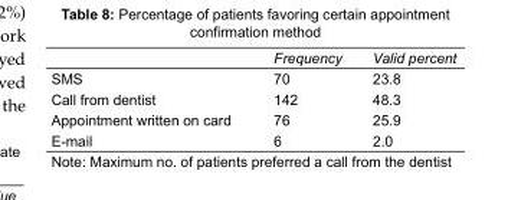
<table><thead><tr><td></td><td>Frequency</td><td>Valid percent</td></tr></thead><tbody><tr><td>SMS</td><td>70</td><td>23.8</td></tr><tr><td>Call from dentist</td><td>142</td><td>48.3</td></tr><tr><td>Appointment written on card</td><td>76</td><td>25.9</td></tr><tr><td>E-mail</td><td>6</td><td>2.0</td></tr></tbody></table>